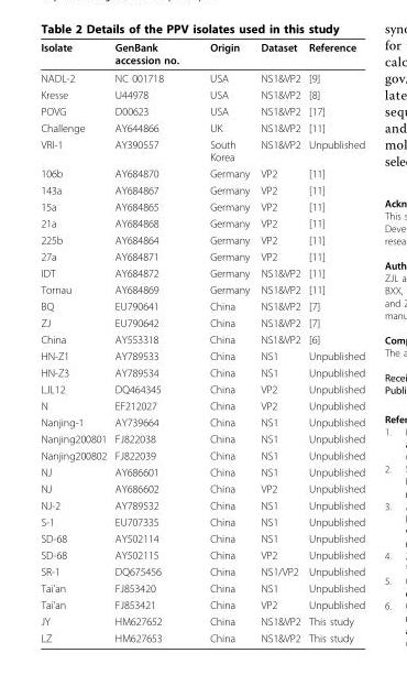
<table><thead><tr><td>Isolate</td><td>GenBank accession no.</td><td>Origin</td><td>Dataset</td><td>Reference</td></tr></thead><tbody><tr><td>NADL-2</td><td>NC 001718</td><td>USA</td><td>NS1&amp;VP2</td><td>[9]</td></tr><tr><td>Kresse</td><td>U44978</td><td>USA</td><td>NS1&amp;VP2</td><td>[8]</td></tr><tr><td>POVG</td><td>D00623</td><td>USA</td><td>NS1&amp;VP2</td><td>[17]</td></tr><tr><td>Challenge</td><td>AY644866</td><td>UK</td><td>NS1&amp;VP2</td><td>[11]</td></tr><tr><td>VRI-1</td><td>AY390557</td><td>South Korea</td><td>NS1&amp;VP2</td><td>Unpublished</td></tr><tr><td>106b</td><td>AY684870</td><td>Germany</td><td>VP2</td><td>[11]</td></tr><tr><td>143a</td><td>AY684867</td><td>Germany</td><td>VP2</td><td>[11]</td></tr><tr><td>15a</td><td>AY684865</td><td>Germany</td><td>VP2</td><td>[11]</td></tr><tr><td>21a</td><td>AY684868</td><td>Germany</td><td>VP2</td><td>[11]</td></tr><tr><td>225b</td><td>AY684864</td><td>Germany</td><td>VP2</td><td>[11]</td></tr><tr><td>27a</td><td>AY684871</td><td>Germany</td><td>VP2</td><td>[11]</td></tr><tr><td>IDT</td><td>AY684872</td><td>Germany</td><td>NS1&amp;VP2</td><td>[11]</td></tr><tr><td>Tornau</td><td>AY684869</td><td>Germany</td><td>NS1&amp;VP2</td><td>[11]</td></tr><tr><td>BQ</td><td>EU790641</td><td>China</td><td>NS1&amp;VP2</td><td>[7]</td></tr><tr><td>ZJ</td><td>EU790642</td><td>China</td><td>NS1&amp;VP2</td><td>[7]</td></tr><tr><td>China</td><td>AY553318</td><td>China</td><td>NS1&amp;VP2</td><td>[6]</td></tr><tr><td>HN-Z1</td><td>AY789533</td><td>China</td><td>NS1</td><td>Unpublished</td></tr><tr><td>HN-Z3</td><td>AY789534</td><td>China</td><td>NS1</td><td>Unpublished</td></tr><tr><td>LJL12</td><td>DQ464345</td><td>China</td><td>VP2</td><td>Unpublished</td></tr><tr><td>N</td><td>EF212027</td><td>China</td><td>VP2</td><td>Unpublished</td></tr><tr><td>Nanjing-1</td><td>AY739664</td><td>China</td><td>NS1</td><td>Unpublished</td></tr><tr><td>Nanjing200801</td><td>FJ822038</td><td>China</td><td>NS1</td><td>Unpublished</td></tr><tr><td>Nanjing200802</td><td>FJ822039</td><td>China</td><td>NS1</td><td>Unpublished</td></tr><tr><td>NJ</td><td>AY686601</td><td>China</td><td>NS1</td><td>Unpublished</td></tr><tr><td>NJ</td><td>AY686602</td><td>China</td><td>VP2</td><td>Unpublished</td></tr><tr><td>NJ-2</td><td>AY789532</td><td>China</td><td>NS1</td><td>Unpublished</td></tr><tr><td>S-1</td><td>EU707335</td><td>China</td><td>NS1</td><td>Unpublished</td></tr><tr><td>SD-68</td><td>AY502114</td><td>China</td><td>NS1</td><td>Unpublished</td></tr><tr><td>SD-68</td><td>AY502115</td><td>China</td><td>VP2</td><td>Unpublished</td></tr><tr><td>SR-1</td><td>DQ675456</td><td>China</td><td>NS1/VP2</td><td>Unpublished</td></tr><tr><td>Tai’an</td><td>FJ853420</td><td>China</td><td>NS1</td><td>Unpublished</td></tr><tr><td>Tai’an</td><td>FJ853421</td><td>China</td><td>VP2</td><td>Unpublished</td></tr><tr><td>JY</td><td>HM627652</td><td>China</td><td>NS1&amp;VP2</td><td>This study</td></tr><tr><td>LZ</td><td>HM627653</td><td>China</td><td>NS1&amp;VP2</td><td>This study</td></tr></tbody></table>